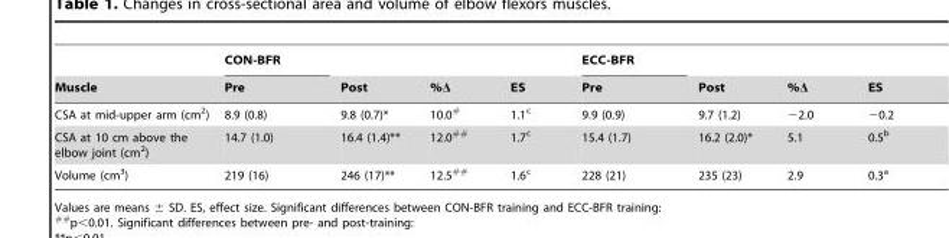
<table><thead><tr><td rowspan="2">Muscle</td><td rowspan="2">CON-BFR Pre</td><td rowspan="2">Post</td><td rowspan="2">%Δ</td><td rowspan="2">ES</td><td rowspan="2">ECC-BFR Pre</td><td rowspan="2">Post</td><td rowspan="2">%Δ</td><td rowspan="2">ES</td></tr><tr></tr></thead><tbody><tr><td>CSA at mid-upper arm (cm<sup>2</sup>)</td><td>8.9 (0.8)</td><td>9.8 (0.7)*</td><td>10.0<sup>#</sup></td><td>1.1<sup>c</sup></td><td>9.9 (0.9)</td><td>9.7 (1.2)</td><td>−2.0</td><td>−0.2</td></tr><tr><td>CSA at 10 cm above the elbow joint (cm<sup>2</sup>)</td><td>14.7 (1.0)</td><td>16.4 (1.4)**</td><td>12.0##</td><td>1.7<sup>c</sup></td><td>15.4 (1.7)</td><td>16.2 (2.0)*</td><td>5.1</td><td>0.5<sup>b</sup></td></tr><tr><td>Volume (cm<sup>3</sup>)</td><td>219 (16)</td><td>246 (17)**</td><td>12.5##</td><td>1.6<sup>c</sup></td><td>228 (21)</td><td>235 (23)</td><td>2.9</td><td>0.3<sup>a</sup></td></tr></tbody></table>